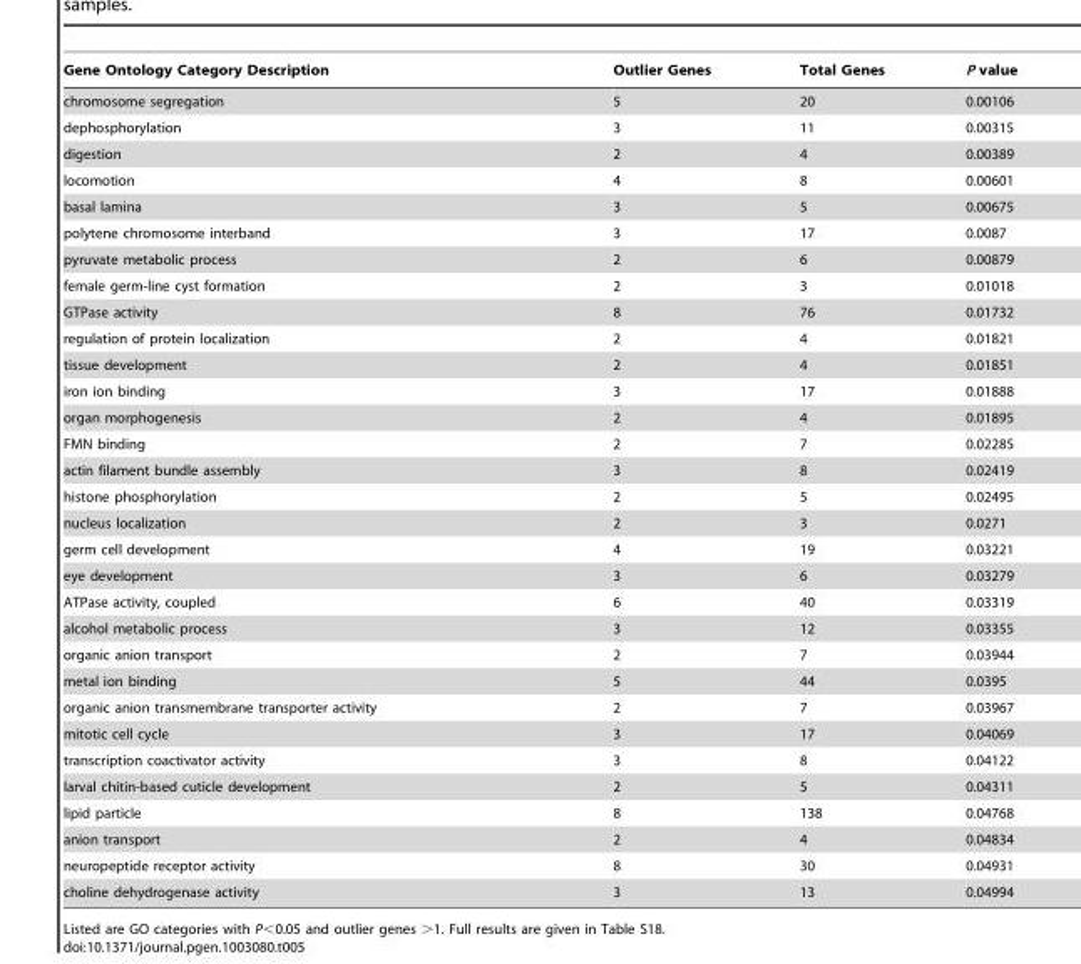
<table><thead><tr><td>Gene Ontology Category Description</td><td>Outlier Genes</td><td>Total Genes</td><td>P value</td></tr></thead><tbody><tr><td>chromosome segregation</td><td>5</td><td>20</td><td>0.00106</td></tr><tr><td>dephosphorylation</td><td>3</td><td>11</td><td>0.00315</td></tr><tr><td>digestion</td><td>2</td><td>4</td><td>0.00389</td></tr><tr><td>locomotion</td><td>4</td><td>8</td><td>0.00601</td></tr><tr><td>basal lamina</td><td>3</td><td>5</td><td>0.00675</td></tr><tr><td>polytene chromosome interband</td><td>3</td><td>17</td><td>0.0087</td></tr><tr><td>pyruvate metabolic process</td><td>2</td><td>6</td><td>0.00879</td></tr><tr><td>female germ-line cyst formation</td><td>2</td><td>3</td><td>0.01018</td></tr><tr><td>GTPase activity</td><td>8</td><td>76</td><td>0.01732</td></tr><tr><td>regulation of protein localization</td><td>2</td><td>4</td><td>0.01821</td></tr><tr><td>tissue development</td><td>2</td><td>4</td><td>0.01851</td></tr><tr><td>iron ion binding</td><td>3</td><td>17</td><td>0.01888</td></tr><tr><td>organ morphogenesis</td><td>2</td><td>4</td><td>0.01895</td></tr><tr><td>FMN binding</td><td>2</td><td>7</td><td>0.02285</td></tr><tr><td>actin filament bundle assembly</td><td>3</td><td>8</td><td>0.02419</td></tr><tr><td>histone phosphorylation</td><td>2</td><td>5</td><td>0.02495</td></tr><tr><td>nucleus localization</td><td>2</td><td>3</td><td>0.0271</td></tr><tr><td>germ cell development</td><td>4</td><td>19</td><td>0.03221</td></tr><tr><td>eye development</td><td>3</td><td>6</td><td>0.03279</td></tr><tr><td>ATPase activity, coupled</td><td>6</td><td>40</td><td>0.03319</td></tr><tr><td>alcohol metabolic process</td><td>3</td><td>12</td><td>0.03355</td></tr><tr><td>organic anion transport</td><td>2</td><td>7</td><td>0.03944</td></tr><tr><td>metal ion binding</td><td>5</td><td>44</td><td>0.0395</td></tr><tr><td>organic anion transmembrane transporter activity</td><td>2</td><td>7</td><td>0.03967</td></tr><tr><td>mitotic cell cycle</td><td>3</td><td>17</td><td>0.04069</td></tr><tr><td>transcription coactivator activity</td><td>3</td><td>8</td><td>0.04122</td></tr><tr><td>larval chitin-based cuticle development</td><td>2</td><td>5</td><td>0.04311</td></tr><tr><td>lipid particle</td><td>8</td><td>138</td><td>0.04768</td></tr><tr><td>anion transport</td><td>2</td><td>4</td><td>0.04834</td></tr><tr><td>neuropeptide receptor activity</td><td>8</td><td>30</td><td>0.04931</td></tr><tr><td>choline dehydrogenase activity</td><td>3</td><td>13</td><td>0.04994</td></tr></tbody></table>